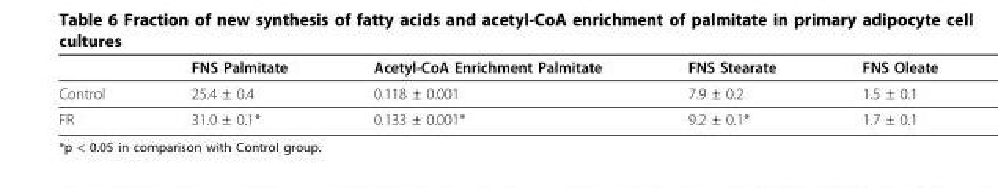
<table><thead><tr><td></td><td>FNS Palmitate</td><td>Acetyl-CoA Enrichment Palmitate</td><td>FNS Stearate</td><td>FNS Oleate</td></tr></thead><tbody><tr><td>Control</td><td>25.4 ± 0.4</td><td>0.118 ± 0.001</td><td>7.9 ± 0.2</td><td>1.5 ± 0.1</td></tr><tr><td>FR</td><td>31.0 ± 0.1*</td><td>0.133 ± 0.001*</td><td>9.2 ± 0.1*</td><td>1.7 ± 0.1</td></tr></tbody></table>